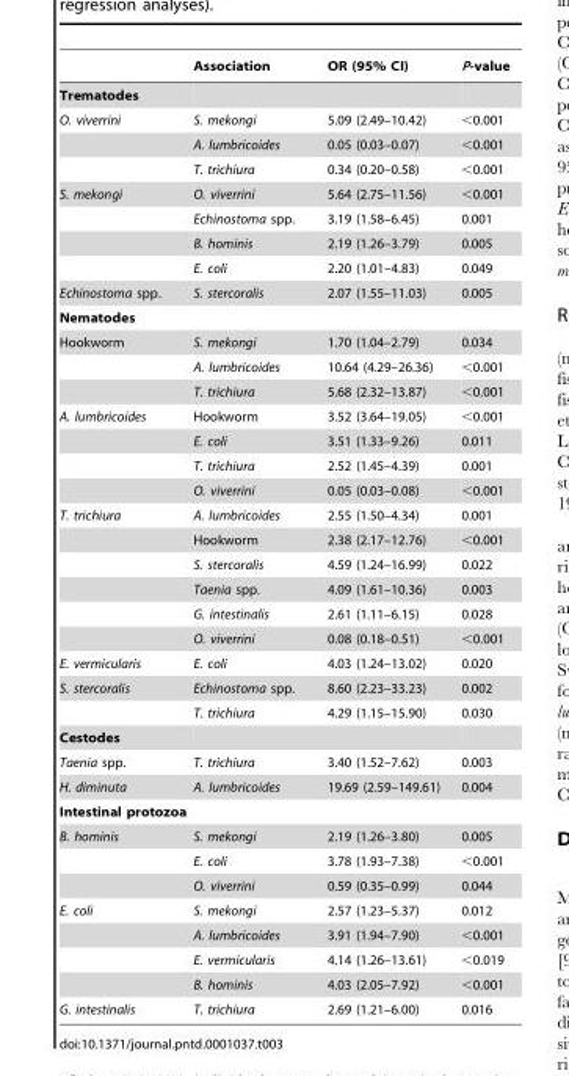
<table><thead><tr><td></td><td>Association</td><td>OR (95% CI)</td><td>P-value</td></tr></thead><tbody><tr><td colspan="4">Trematodes</td></tr><tr><td rowspan="3">O. viverrini</td><td>S. mekongi</td><td>5.09 (2.49–10.42)</td><td>&lt;0.001</td></tr><tr><td>A. lumbricoides</td><td>0.05 (0.03–0.07)</td><td>&lt;0.001</td></tr><tr><td>T. trichiura</td><td>0.34 (0.20–0.58)</td><td>&lt;0.001</td></tr><tr><td rowspan="4">S. mekongi</td><td>O. viverrini</td><td>5.64 (2.75–11.56)</td><td>&lt;0.001</td></tr><tr><td>Echinostoma spp.</td><td>3.19 (1.58–6.45)</td><td>0.001</td></tr><tr><td>B. hominis</td><td>2.19 (1.26–3.79)</td><td>0.005</td></tr><tr><td>E. coli</td><td>2.20 (1.01–4.83)</td><td>0.049</td></tr><tr><td>Echinostoma spp.</td><td>S. stercoralis</td><td>2.07 (1.55–11.03)</td><td>0.005</td></tr><tr><td colspan="4">Nematodes</td></tr><tr><td rowspan="3">Hookworm</td><td>S. mekongi</td><td>1.70 (1.04–2.79)</td><td>0.034</td></tr><tr><td>A. lumbricoides</td><td>10.64 (4.29–26.36)</td><td>&lt;0.001</td></tr><tr><td>T. trichiura</td><td>5.68 (2.32–13.87)</td><td>&lt;0.001</td></tr><tr><td rowspan="4">A. lumbricoides</td><td>Hookworm</td><td>3.52 (3.64–19.05)</td><td>&lt;0.001</td></tr><tr><td>E. coli</td><td>3.51 (1.33–9.26)</td><td>0.011</td></tr><tr><td>T. trichiura</td><td>2.52 (1.45–4.39)</td><td>0.001</td></tr><tr><td>O. viverrini</td><td>0.05 (0.03–0.08)</td><td>&lt;0.001</td></tr><tr><td rowspan="6">T. trichiura</td><td>A. lumbricoides</td><td>2.55 (1.50–4.34)</td><td>0.001</td></tr><tr><td>Hookworm</td><td>2.38 (2.17–12.76)</td><td>&lt;0.001</td></tr><tr><td>S. stercoralis</td><td>4.59 (1.24–16.99)</td><td>0.022</td></tr><tr><td>Taenia spp.</td><td>4.09 (1.61–10.36)</td><td>0.003</td></tr><tr><td>G. intestinalis</td><td>2.61 (1.11–6.15)</td><td>0.028</td></tr><tr><td>O. viverrini</td><td>0.08 (0.18–0.51)</td><td>&lt;0.001</td></tr><tr><td>E. vermicularis</td><td>E. coli</td><td>4.03 (1.24–13.02)</td><td>0.020</td></tr><tr><td rowspan="2">S. stercoralis</td><td>Echinostoma spp.</td><td>8.60 (2.23–33.23)</td><td>0.002</td></tr><tr><td>T. trichiura</td><td>4.29 (1.15–15.90)</td><td>0.030</td></tr><tr><td colspan="4">Cestodes</td></tr><tr><td>Taenia spp.</td><td>T. trichiura</td><td>3.40 (1.52–7.62)</td><td>0.003</td></tr><tr><td>H. diminuta</td><td>A. lumbricoides</td><td>19.69 (2.59–149.61)</td><td>0.004</td></tr><tr><td colspan="4">Intestinal protozoa</td></tr><tr><td rowspan="3">B. hominis</td><td>S. mekongi</td><td>2.19 (1.26–3.80)</td><td>0.005</td></tr><tr><td>E. coli</td><td>3.78 (1.93–7.38)</td><td>&lt;0.001</td></tr><tr><td>O. viverrini</td><td>0.59 (0.35–0.99)</td><td>0.044</td></tr><tr><td rowspan="4">E. coli</td><td>S. mekongi</td><td>2.57 (1.23–5.37)</td><td>0.012</td></tr><tr><td>A. lumbricoides</td><td>3.91 (1.94–7.90)</td><td>&lt;0.001</td></tr><tr><td>E. vermicularis</td><td>4.14 (1.26–13.61)</td><td>&lt;0.019</td></tr><tr><td>B. hominis</td><td>4.03 (2.05–7.92)</td><td>&lt;0.001</td></tr><tr><td>G. intestinalis</td><td>T. trichiura</td><td>2.69 (1.21–6.00)</td><td>0.016</td></tr></tbody></table>